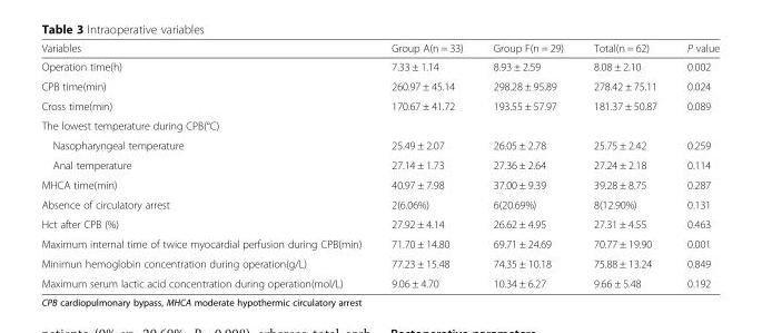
<table><thead><tr><td>Variables</td><td>Group A(n = 33)</td><td>Group F(n = 29)</td><td>Total(n = 62)</td><td>P value</td></tr></thead><tbody><tr><td>Operation time(h)</td><td>7.33 ± 1.14</td><td>8.93 ± 2.59</td><td>8.08 ± 2.10</td><td>0.002</td></tr><tr><td>CPB time(min)</td><td>260.97 ± 45.14</td><td>298.28 ± 95.89</td><td>278.42 ± 75.11</td><td>0.024</td></tr><tr><td>Cross time(min)</td><td>170.67 ± 41.72</td><td>193.55 ± 57.97</td><td>181.37 ± 50.87</td><td>0.089</td></tr><tr><td colspan="5">The lowest temperature during CPB(°C)</td></tr><tr><td>Nasopharyngeal temperature</td><td>25.49 ± 2.07</td><td>26.05 ± 2.78</td><td>25.75 ± 2.42</td><td>0.259</td></tr><tr><td>Anal temperature</td><td>27.14 ± 1.73</td><td>27.36 ± 2.64</td><td>27.24 ± 2.18</td><td>0.114</td></tr><tr><td>MHCA time(min)</td><td>40.97 ± 7.98</td><td>37.00 ± 9.39</td><td>39.28 ± 8.75</td><td>0.287</td></tr><tr><td>Absence of circulatory arrest</td><td>2(6.06%)</td><td>6(20.69%)</td><td>8(12.90%)</td><td>0.131</td></tr><tr><td>Hct after CPB (%)</td><td>27.92 ± 4.14</td><td>26.62 ± 4.95</td><td>27.31 ± 4.55</td><td>0.463</td></tr><tr><td>Maximum internal time of twice myocardial perfusion during CPB(min)</td><td>71.70 ± 14.80</td><td>69.71 ± 24.69</td><td>70.77 ± 19.90</td><td>0.001</td></tr><tr><td>Minimun hemoglobin concentration during operation(g/L)</td><td>77.23 ± 15.48</td><td>74.35 ± 10.18</td><td>75.88 ± 13.24</td><td>0.849</td></tr><tr><td>Maximum serum lactic acid concentration during operation(mol/L)</td><td>9.06 ± 4.70</td><td>10.34 ± 6.27</td><td>9.66 ± 5.48</td><td>0.192</td></tr></tbody></table>